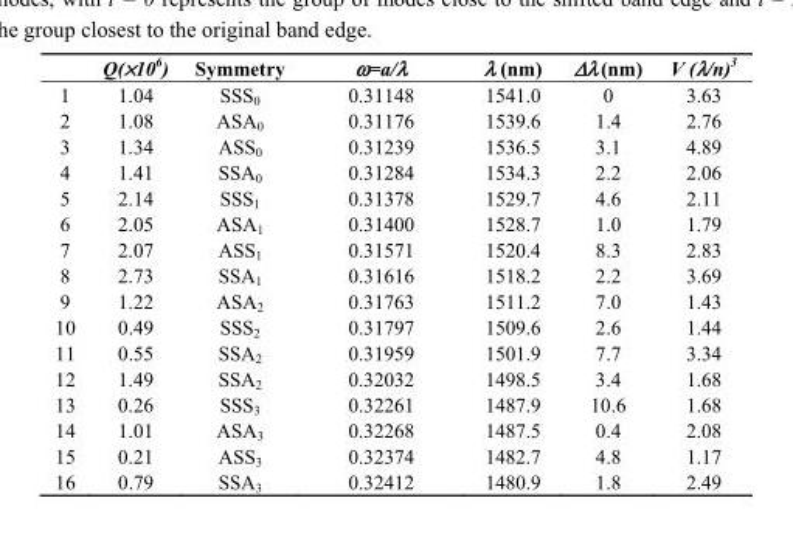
<table><thead><tr><td></td><td>Q(×10<sup>6</sup>)</td><td>Symmetry</td><td>ω=a/λ</td><td>λ (nm)</td><td>Δλ (nm)</td><td>V (λ/n)<sup>3</sup></td></tr></thead><tbody><tr><td>1</td><td>1.04</td><td>SSS<sub>0</sub></td><td>0.31148</td><td>1541.0</td><td>0</td><td>3.63</td></tr><tr><td>2</td><td>1.08</td><td>ASA<sub>0</sub></td><td>0.31176</td><td>1539.6</td><td>1.4</td><td>2.76</td></tr><tr><td>3</td><td>1.34</td><td>ASS<sub>0</sub></td><td>0.31239</td><td>1536.5</td><td>3.1</td><td>4.89</td></tr><tr><td>4</td><td>1.41</td><td>SSA<sub>0</sub></td><td>0.31284</td><td>1534.3</td><td>2.2</td><td>2.06</td></tr><tr><td>5</td><td>2.14</td><td>SSS<sub>1</sub></td><td>0.31378</td><td>1529.7</td><td>4.6</td><td>2.11</td></tr><tr><td>6</td><td>2.05</td><td>ASA<sub>1</sub></td><td>0.31400</td><td>1528.7</td><td>1.0</td><td>1.79</td></tr><tr><td>7</td><td>2.07</td><td>ASS<sub>1</sub></td><td>0.31571</td><td>1520.4</td><td>8.3</td><td>2.83</td></tr><tr><td>8</td><td>2.73</td><td>SSA<sub>1</sub></td><td>0.31616</td><td>1518.2</td><td>2.2</td><td>3.69</td></tr><tr><td>9</td><td>1.22</td><td>ASA<sub>2</sub></td><td>0.31763</td><td>1511.2</td><td>7.0</td><td>1.43</td></tr><tr><td>10</td><td>0.49</td><td>SSS<sub>2</sub></td><td>0.31797</td><td>1509.6</td><td>2.6</td><td>1.44</td></tr><tr><td>11</td><td>0.55</td><td>SSA<sub>2</sub></td><td>0.31959</td><td>1501.9</td><td>7.7</td><td>3.34</td></tr><tr><td>12</td><td>1.49</td><td>SSA<sub>2</sub></td><td>0.32032</td><td>1498.5</td><td>3.4</td><td>1.68</td></tr><tr><td>13</td><td>0.26</td><td>SSS<sub>3</sub></td><td>0.32261</td><td>1487.9</td><td>10.6</td><td>1.68</td></tr><tr><td>14</td><td>1.01</td><td>ASA<sub>3</sub></td><td>0.32268</td><td>1487.5</td><td>0.4</td><td>2.08</td></tr><tr><td>15</td><td>0.21</td><td>ASS<sub>3</sub></td><td>0.32374</td><td>1482.7</td><td>4.8</td><td>1.17</td></tr><tr><td>16</td><td>0.79</td><td>SSA<sub>3</sub></td><td>0.32412</td><td>1480.9</td><td>1.8</td><td>2.49</td></tr></tbody></table>